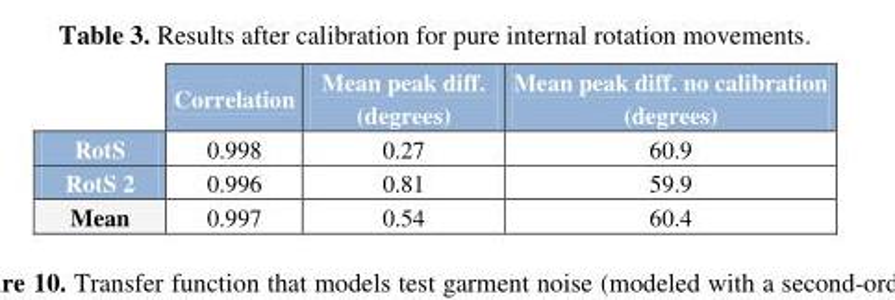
<table><thead><tr><td></td><td>Correlation</td><td>Mean peak diff. (degrees)</td><td>Mean peak diff. no calibration (degrees)</td></tr></thead><tbody><tr><td>RotS</td><td>0.998</td><td>0.27</td><td>60.9</td></tr><tr><td>RotS 2</td><td>0.996</td><td>0.81</td><td>59.9</td></tr><tr><td>Mean</td><td>0.997</td><td>0.54</td><td>60.4</td></tr></tbody></table>